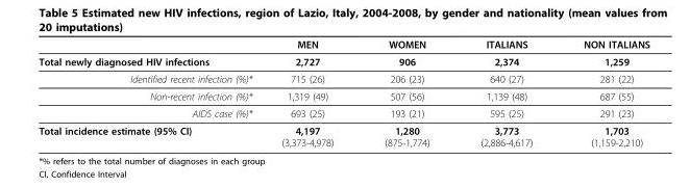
<table><thead><tr><td></td><td>MEN</td><td>WOMEN</td><td>ITALIANS</td><td>NON ITALIANS</td></tr></thead><tbody><tr><td>Total newly diagnosed HIV infections</td><td>2,727</td><td>906</td><td>2,374</td><td>1,259</td></tr><tr><td>Identified recent infection (%)*</td><td>715 (26)</td><td>206 (23)</td><td>640 (27)</td><td>281 (22)</td></tr><tr><td>Non-recent infection (%)*</td><td>1,319 (49)</td><td>507 (56)</td><td>1,139 (48)</td><td>687 (55)</td></tr><tr><td>AIDS case (%)*</td><td>693 (25)</td><td>193 (21)</td><td>595 (25)</td><td>291 (23)</td></tr><tr><td>Total incidence estimate (95% CI)</td><td>4,197 (3,373-4,978)</td><td>1,280 (875-1,774)</td><td>3,773 (2,886-4,617)</td><td>1,703 (1,159-2,210)</td></tr></tbody></table>